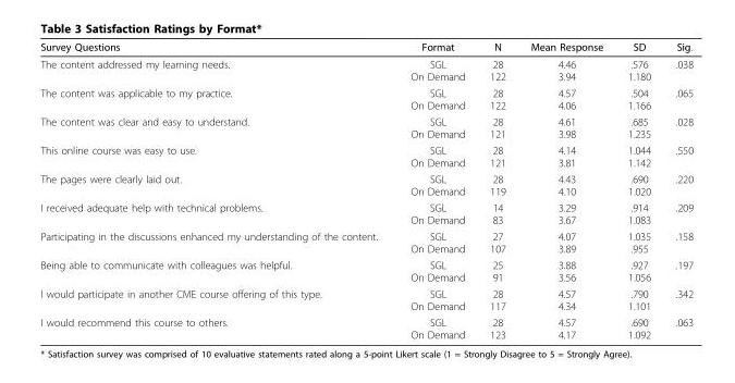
<table><thead><tr><td>Survey Questions</td><td>Format</td><td>N</td><td>Mean Response</td><td>SD</td><td>Sig.</td></tr></thead><tbody><tr><td>The content addressed my learning needs.</td><td>SGL On Demand</td><td>28 122</td><td>4.46 3.94</td><td>.576 1.180</td><td>.038</td></tr><tr><td>The content was applicable to my practice.</td><td>SGL On Demand</td><td>28 122</td><td>4.57 4.06</td><td>.504 1.166</td><td>.065</td></tr><tr><td>The content was clear and easy to understand.</td><td>SGL On Demand</td><td>28 121</td><td>4.61 3.98</td><td>.685 1.235</td><td>.028</td></tr><tr><td>This online course was easy to use.</td><td>SGL On Demand</td><td>28 121</td><td>4.14 3.81</td><td>1.044 1.142</td><td>.550</td></tr><tr><td>The pages were clearly laid out.</td><td>SGL On Demand</td><td>28 119</td><td>4.43 4.10</td><td>.690 1.020</td><td>.220</td></tr><tr><td>I received adequate help with technical problems.</td><td>SGL On Demand</td><td>14 83</td><td>3.29 3.67</td><td>.914 1.083</td><td>.209</td></tr><tr><td>Participating in the discussions enhanced my understanding of the content.</td><td>SGL On Demand</td><td>27 107</td><td>4.07 3.89</td><td>1.035 .955</td><td>.158</td></tr><tr><td>Being able to communicate with colleagues was helpful.</td><td>SGL On Demand</td><td>25 91</td><td>3.88 3.56</td><td>.927 1.056</td><td>.197</td></tr><tr><td>I would participate in another CME course offering of this type.</td><td>SGL On Demand</td><td>28 117</td><td>4.57 4.34</td><td>.790 1.101</td><td>.342</td></tr><tr><td>I would recommend this course to others.</td><td>SGL On Demand</td><td>28 123</td><td>4.57 4.17</td><td>.690 1.092</td><td>.063</td></tr></tbody></table>